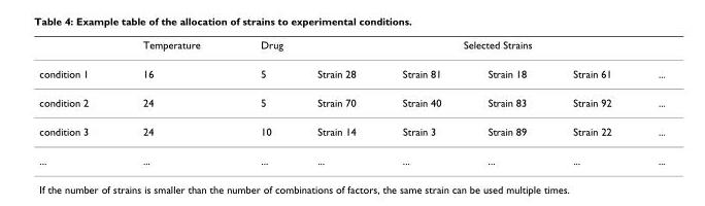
<table><thead><tr><td rowspan="2">condition 1</td><td rowspan="2">Temperature 16</td><td rowspan="2">Drug 5</td><td colspan="5">Selected Strains</td></tr><tr><td>Strain 28</td><td>Strain 81</td><td>Strain 18</td><td>Strain 61</td><td>...</td></tr></thead><tbody><tr><td>condition 2</td><td>24</td><td>5</td><td>Strain 70</td><td>Strain 40</td><td>Strain 83</td><td>Strain 92</td><td>...</td></tr><tr><td>condition 3</td><td>24</td><td>10</td><td>Strain 14</td><td>Strain 3</td><td>Strain 89</td><td>Strain 22</td><td>...</td></tr><tr><td>...</td><td>...</td><td>...</td><td>...</td><td>...</td><td>...</td><td>...</td><td>...</td></tr></tbody></table>